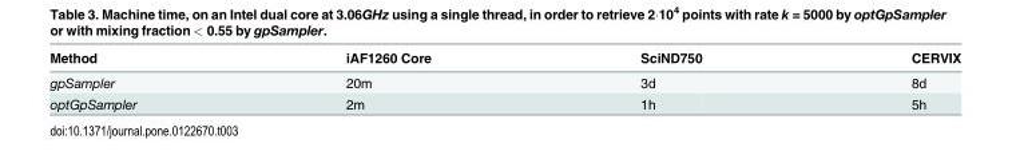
<table><thead><tr><td>Method</td><td>iAF1260 Core</td><td>SciND750</td><td>CERVIX</td></tr></thead><tbody><tr><td>gpSampler</td><td>20m</td><td>3d</td><td>8d</td></tr><tr><td>optGpSampler</td><td>2m</td><td>1h</td><td>5h</td></tr></tbody></table>